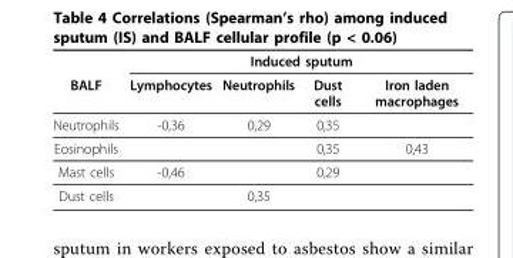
<table><thead><tr><td rowspan="2">BALF</td><td colspan="4">Induced sputum</td></tr><tr><td>Lymphocytes</td><td>Neutrophils</td><td>Dust cells</td><td>Iron laden macrophages</td></tr></thead><tbody><tr><td>Neutrophils</td><td>-0,36</td><td>0,29</td><td>0,35</td><td></td></tr><tr><td>Eosinophils</td><td></td><td></td><td>0,35</td><td>0,43</td></tr><tr><td>Mast cells</td><td>-0,46</td><td></td><td>0,29</td><td></td></tr><tr><td>Dust cells</td><td></td><td>0,35</td><td></td><td></td></tr></tbody></table>